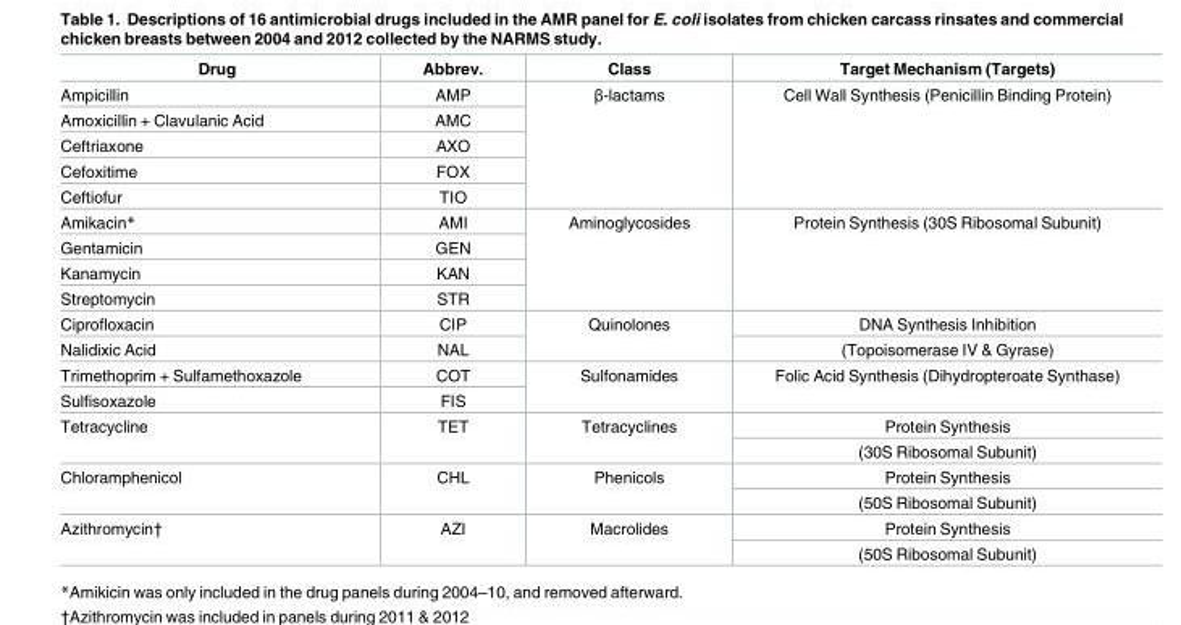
<table><thead><tr><td>Drug</td><td>Abbrev.</td><td>Class</td><td>Target Mechanism (Targets)</td></tr></thead><tbody><tr><td>Ampicillin</td><td>AMP</td><td rowspan="5">β-lactams</td><td rowspan="5">Cell Wall Synthesis (Penicillin Binding Protein)</td></tr><tr><td>Amoxicillin + Clavulanic Acid</td><td>AMC</td></tr><tr><td>Ceftriaxone</td><td>AXO</td></tr><tr><td>Cefoxitime</td><td>FOX</td></tr><tr><td>Ceftiofur</td><td>TIO</td></tr><tr><td>Amikacin*</td><td>AMI</td><td rowspan="4">Aminoglycosides</td><td rowspan="4">Protein Synthesis (30S Ribosomal Subunit)</td></tr><tr><td>Gentamicin</td><td>GEN</td></tr><tr><td>Kanamycin</td><td>KAN</td></tr><tr><td>Streptomycin</td><td>STR</td></tr><tr><td>Ciprofloxacin</td><td>CIP</td><td rowspan="2">Quinolones</td><td>DNA Synthesis Inhibition</td></tr><tr><td>Nalidixic Acid</td><td>NAL</td><td>(Topoisomerase IV &amp; Gyrase)</td></tr><tr><td>Trimethoprim + Sulfamethoxazole</td><td>COT</td><td rowspan="2">Sulfonamides</td><td rowspan="2">Folic Acid Synthesis (Dihydropteroate Synthase)</td></tr><tr><td>Sulfisoxazole</td><td>FIS</td></tr><tr><td rowspan="2">Tetracycline</td><td rowspan="2">TET</td><td rowspan="2">Tetracyclines</td><td>Protein Synthesis</td></tr><tr><td>(30S Ribosomal Subunit)</td></tr><tr><td rowspan="2">Chloramphenicol</td><td rowspan="2">CHL</td><td rowspan="2">Phenicols</td><td>Protein Synthesis</td></tr><tr><td>(50S Ribosomal Subunit)</td></tr><tr><td rowspan="2">Azithromycin†</td><td rowspan="2">AZI</td><td rowspan="2">Macrolides</td><td>Protein Synthesis</td></tr><tr><td>(50S Ribosomal Subunit)</td></tr></tbody></table>